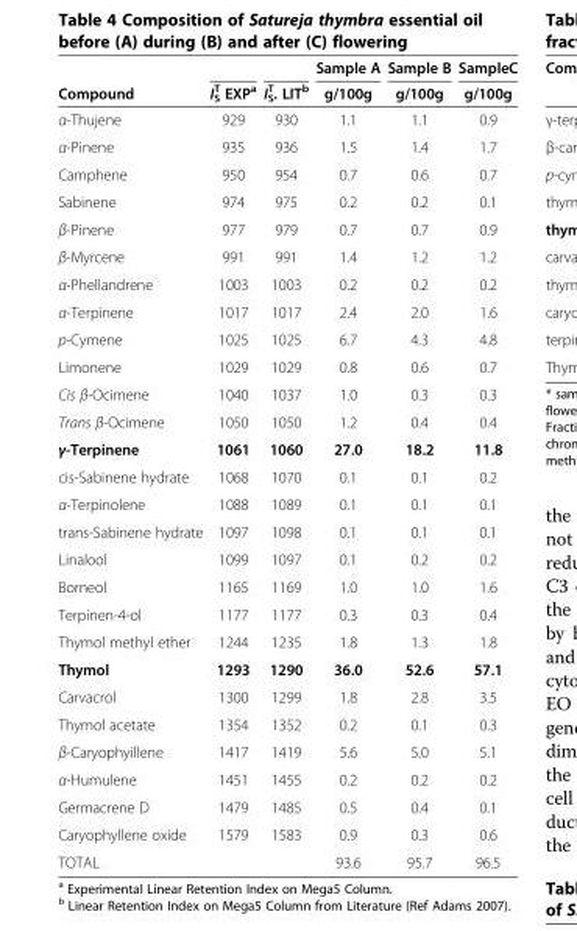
<table><thead><tr><td rowspan="2">Compound</td><td rowspan="2">I<sup>T</sup> <sub>S</sub> EXP<sup>a</sup></td><td rowspan="2">I<sup>T</sup> <sub>S</sub>. LIT<sup>b</sup></td><td rowspan="2">Sample A g/100g</td><td rowspan="2">Sample B g/100g</td><td rowspan="2">SampleC g/100g</td></tr><tr></tr></thead><tbody><tr><td>α-Thujene</td><td>929</td><td>930</td><td>1.1</td><td>1.1</td><td>0.9</td></tr><tr><td>α-Pinene</td><td>935</td><td>936</td><td>1.5</td><td>1.4</td><td>1.7</td></tr><tr><td>Camphene</td><td>950</td><td>954</td><td>0.7</td><td>0.6</td><td>0.7</td></tr><tr><td>Sabinene</td><td>974</td><td>975</td><td>0.2</td><td>0.2</td><td>0.1</td></tr><tr><td>β-Pinene</td><td>977</td><td>979</td><td>0.7</td><td>0.7</td><td>0.9</td></tr><tr><td>β-Myrcene</td><td>991</td><td>991</td><td>1.4</td><td>1.2</td><td>1.2</td></tr><tr><td>α-Phellandrene</td><td>1003</td><td>1003</td><td>0.2</td><td>0.2</td><td>0.2</td></tr><tr><td>α-Terpinene</td><td>1017</td><td>1017</td><td>2.4</td><td>2.0</td><td>1.6</td></tr><tr><td>p-Cymene</td><td>1025</td><td>1025</td><td>6.7</td><td>4.3</td><td>4.8</td></tr><tr><td>Limonene</td><td>1029</td><td>1029</td><td>0.8</td><td>0.6</td><td>0.7</td></tr><tr><td>Cis β-Ocimene</td><td>1040</td><td>1037</td><td>1.0</td><td>0.3</td><td>0.3</td></tr><tr><td>Trans β-Ocimene</td><td>1050</td><td>1050</td><td>1.2</td><td>0.4</td><td>0.4</td></tr><tr><td>γ-Terpinene</td><td>1061</td><td>1060</td><td>27.0</td><td>18.2</td><td>11.8</td></tr><tr><td>cis-Sabinene hydrate</td><td>1068</td><td>1070</td><td>0.1</td><td>0.1</td><td>0.2</td></tr><tr><td>α-Terpinolene</td><td>1088</td><td>1089</td><td>0.1</td><td>0.1</td><td>0.1</td></tr><tr><td>trans-Sabinene hydrate</td><td>1097</td><td>1098</td><td>0.1</td><td>0.1</td><td>0.1</td></tr><tr><td>Linalool</td><td>1099</td><td>1097</td><td>0.1</td><td>0.2</td><td>0.2</td></tr><tr><td>Borneol</td><td>1165</td><td>1169</td><td>1.0</td><td>1.0</td><td>1.6</td></tr><tr><td>Terpinen-4-ol</td><td>1177</td><td>1177</td><td>0.3</td><td>0.3</td><td>0.4</td></tr><tr><td>Thymol methyl ether</td><td>1244</td><td>1235</td><td>1.8</td><td>1.3</td><td>1.8</td></tr><tr><td>Thymol</td><td>1293</td><td>1290</td><td>36.0</td><td>52.6</td><td>57.1</td></tr><tr><td>Carvacrol</td><td>1300</td><td>1299</td><td>1.8</td><td>2.8</td><td>3.5</td></tr><tr><td>Thymol acetate</td><td>1354</td><td>1352</td><td>0.2</td><td>0.1</td><td>0.3</td></tr><tr><td>β-Caryophyillene</td><td>1417</td><td>1419</td><td>5.6</td><td>5.0</td><td>5.1</td></tr><tr><td>α-Humulene</td><td>1451</td><td>1455</td><td>0.2</td><td>0.2</td><td>0.2</td></tr><tr><td>Germacrene D</td><td>1479</td><td>1485</td><td>0.5</td><td>0.4</td><td>0.1</td></tr><tr><td>Caryophyllene oxide</td><td>1579</td><td>1583</td><td>0.9</td><td>0.3</td><td>0.6</td></tr><tr><td>TOTAL</td><td></td><td></td><td>93.6</td><td>95.7</td><td>96.5</td></tr></tbody></table>